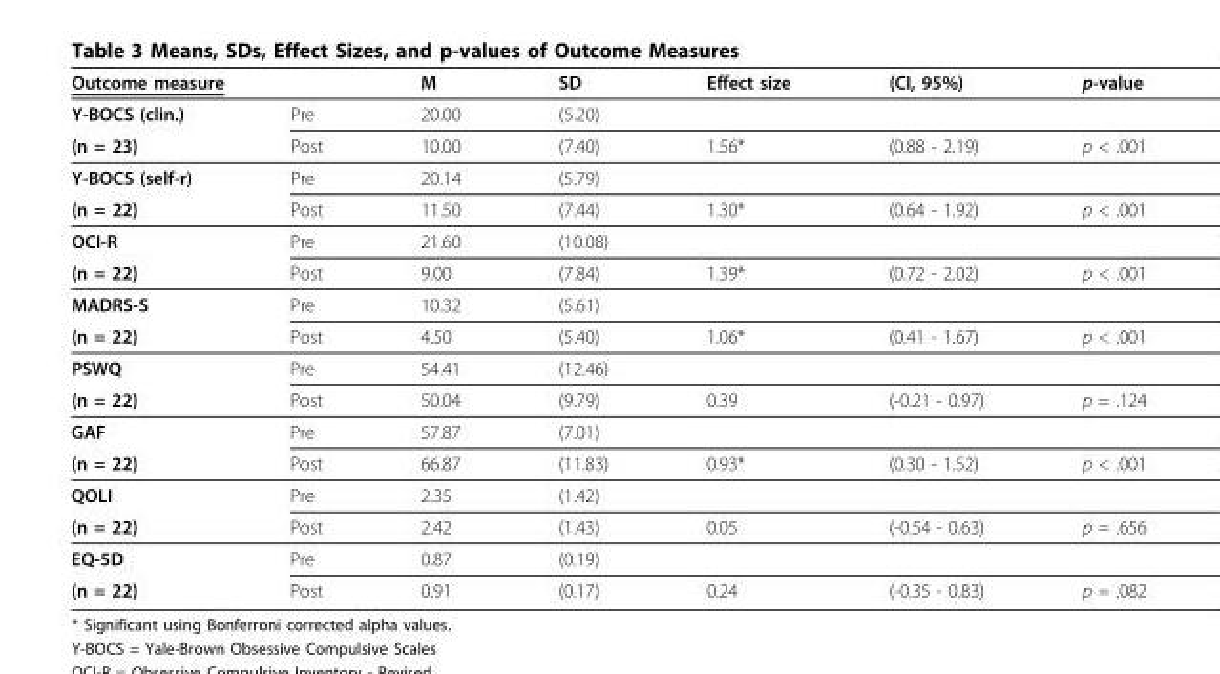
<table><thead><tr><td colspan="2">Outcome measure</td><td rowspan="2">M 20.00</td><td rowspan="2">SD (5.20)</td><td rowspan="2">Effect size</td><td rowspan="2">(CI, 95%)</td><td rowspan="2">p-value</td></tr><tr><td>Y-BOCS (clin.)</td><td>Pre</td></tr></thead><tbody><tr><td>(n = 23)</td><td>Post</td><td>10.00</td><td>(7.40)</td><td>1.56*</td><td>(0.88 - 2.19)</td><td>p &lt; .001</td></tr><tr><td>Y-BOCS (self-r)</td><td>Pre</td><td>20.14</td><td>(5.79)</td><td></td><td></td><td></td></tr><tr><td>(n = 22)</td><td>Post</td><td>11.50</td><td>(7.44)</td><td>1.30*</td><td>(0.64 - 1.92)</td><td>p &lt; .001</td></tr><tr><td>OCI-R</td><td>Pre</td><td>21.60</td><td>(10.08)</td><td></td><td></td><td></td></tr><tr><td>(n = 22)</td><td>Post</td><td>9.00</td><td>(7.84)</td><td>1.39*</td><td>(0.72 - 2.02)</td><td>p &lt; .001</td></tr><tr><td>MADRS-S</td><td>Pre</td><td>10.32</td><td>(5.61)</td><td></td><td></td><td></td></tr><tr><td>(n = 22)</td><td>Post</td><td>4.50</td><td>(5.40)</td><td>1.06*</td><td>(0.41 - 1.67)</td><td>p &lt; .001</td></tr><tr><td>PSWQ</td><td>Pre</td><td>54.41</td><td>(12.46)</td><td></td><td></td><td></td></tr><tr><td>(n = 22)</td><td>Post</td><td>50.04</td><td>(9.79)</td><td>0.39</td><td>(-0.21 - 0.97)</td><td>p = .124</td></tr><tr><td>GAF</td><td>Pre</td><td>57.87</td><td>(7.01)</td><td></td><td></td><td></td></tr><tr><td>(n = 22)</td><td>Post</td><td>66.87</td><td>(11.83)</td><td>0.93*</td><td>(0.30 - 1.52)</td><td>p &lt; .001</td></tr><tr><td>QOLI</td><td>Pre</td><td>2.35</td><td>(1.42)</td><td></td><td></td><td></td></tr><tr><td>(n = 22)</td><td>Post</td><td>2.42</td><td>(1.43)</td><td>0.05</td><td>(-0.54 - 0.63)</td><td>p = .656</td></tr><tr><td>EQ-5D</td><td>Pre</td><td>0.87</td><td>(0.19)</td><td></td><td></td><td></td></tr><tr><td>(n = 22)</td><td>Post</td><td>0.91</td><td>(0.17)</td><td>0.24</td><td>(-0.35 - 0.83)</td><td>p = .082</td></tr></tbody></table>